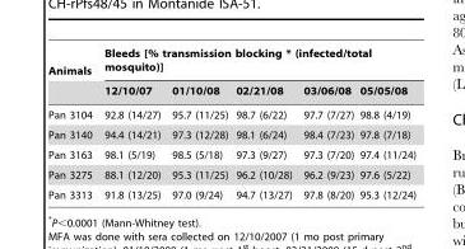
<table><thead><tr><td rowspan="2">Animals</td><td colspan="5">Bleeds [% transmission blocking * (infected/total mosquito)]</td></tr><tr><td>12/10/07</td><td>01/10/08</td><td>02/21/08</td><td>03/06/08</td><td>05/05/08</td></tr></thead><tbody><tr><td>Pan 3104</td><td>92.8 (14/27)</td><td>95.7 (11/25)</td><td>98.7 (6/22)</td><td>97.7 (7/27)</td><td>98.8 (4/19)</td></tr><tr><td>Pan 3140</td><td>94.4 (14/21)</td><td>97.3 (12/28)</td><td>98.1 (6/24)</td><td>98.4 (7/23)</td><td>97.8 (7/18)</td></tr><tr><td>Pan 3163</td><td>98.1 (5/19)</td><td>98.5 (5/18)</td><td>97.3 (9/27)</td><td>97.3 (7/20)</td><td>97.4 (11/24)</td></tr><tr><td>Pan 3275</td><td>88.1 (12/20)</td><td>95.3 (11/25)</td><td>96.2 (10/28)</td><td>96.2 (9/23)</td><td>97.6 (5/22)</td></tr><tr><td>Pan 3313</td><td>91.8 (13/25)</td><td>97.0 (9/24)</td><td>94.7 (13/27)</td><td>97.8 (8/20)</td><td>95.3 (12/24)</td></tr></tbody></table>